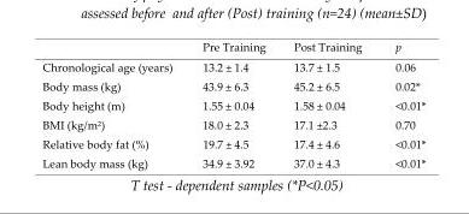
<table><thead><tr><td></td><td>Pre Training</td><td>Post Training</td><td>p</td></tr></thead><tbody><tr><td>Chronological age (years)</td><td>13.2 ± 1.4</td><td>13.7 ± 1.5</td><td>0.06</td></tr><tr><td>Body mass (kg)</td><td>43.9 ± 6.3</td><td>45.2 ± 6.5</td><td>0.02*</td></tr><tr><td>Body height (m)</td><td>1.55 ± 0.04</td><td>1.58 ± 0.04</td><td>&lt;0.01*</td></tr><tr><td>BMI (kg/m<sup>2</sup>)</td><td>18.0 ± 2.3</td><td>17.1 ±2.3</td><td>0.70</td></tr><tr><td>Relative body fat (%)</td><td>19.7 ± 4.5</td><td>17.4 ± 4.6</td><td>&lt;0.01*</td></tr><tr><td>Lean body mass (kg)</td><td>34.9 ± 3.92</td><td>37.0 ± 4.3</td><td>&lt;0.01*</td></tr></tbody></table>